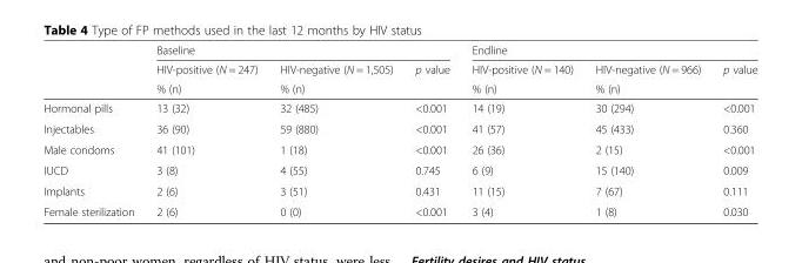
<table><thead><tr><td rowspan="3"></td><td colspan="3">Baseline</td><td colspan="3">Endline</td></tr><tr><td rowspan="2">HIV-positive (N = 247) % (n)</td><td rowspan="2">HIV-negative (N = 1,505) % (n)</td><td rowspan="2">p value</td><td rowspan="2">HIV-positive (N = 140) % (n)</td><td rowspan="2">HIV-negative (N = 966) % (n)</td><td rowspan="2">p value</td></tr><tr></tr></thead><tbody><tr><td>Hormonal pills</td><td>13 (32)</td><td>32 (485)</td><td>&lt;0.001</td><td>14 (19)</td><td>30 (294)</td><td>&lt;0.001</td></tr><tr><td>Injectables</td><td>36 (90)</td><td>59 (880)</td><td>&lt;0.001</td><td>41 (57)</td><td>45 (433)</td><td>0.360</td></tr><tr><td>Male condoms</td><td>41 (101)</td><td>1 (18)</td><td>&lt;0.001</td><td>26 (36)</td><td>2 (15)</td><td>&lt;0.001</td></tr><tr><td>IUCD</td><td>3 (8)</td><td>4 (55)</td><td>0.745</td><td>6 (9)</td><td>15 (140)</td><td>0.009</td></tr><tr><td>Implants</td><td>2 (6)</td><td>3 (51)</td><td>0.431</td><td>11 (15)</td><td>7 (67)</td><td>0.111</td></tr><tr><td>Female sterilization</td><td>2 (6)</td><td>0 (0)</td><td>&lt;0.001</td><td>3 (4)</td><td>1 (8)</td><td>0.030</td></tr></tbody></table>